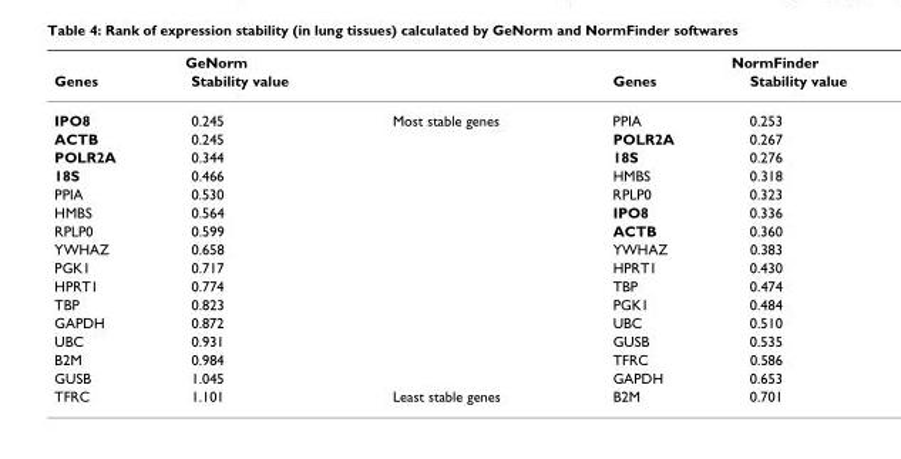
<table><thead><tr><td colspan="2">GeNorm</td><td rowspan="2"></td><td colspan="2">NormFinder</td></tr><tr><td>Genes</td><td>Stability value</td><td>Genes</td><td>Stability value</td></tr></thead><tbody><tr><td>IPO8</td><td>0.245</td><td>Most stable genes</td><td>PPIA</td><td>0.253</td></tr><tr><td>ACTB</td><td>0.245</td><td></td><td>POLR2A</td><td>0.267</td></tr><tr><td>POLR2A</td><td>0.344</td><td></td><td>18S</td><td>0.276</td></tr><tr><td>18S</td><td>0.466</td><td></td><td>HMBS</td><td>0.318</td></tr><tr><td>PPIA</td><td>0.530</td><td></td><td>RPLP0</td><td>0.323</td></tr><tr><td>HMBS</td><td>0.564</td><td></td><td>IPO8</td><td>0.336</td></tr><tr><td>RPLP0</td><td>0.599</td><td></td><td>ACTB</td><td>0.360</td></tr><tr><td>YWHAZ</td><td>0.658</td><td></td><td>YWHAZ</td><td>0.383</td></tr><tr><td>PGK1</td><td>0.717</td><td></td><td>HPRT1</td><td>0.430</td></tr><tr><td>HPRT1</td><td>0.774</td><td></td><td>TBP</td><td>0.474</td></tr><tr><td>TBP</td><td>0.823</td><td></td><td>PGK1</td><td>0.484</td></tr><tr><td>GAPDH</td><td>0.872</td><td></td><td>UBC</td><td>0.510</td></tr><tr><td>UBC</td><td>0.931</td><td></td><td>GUSB</td><td>0.535</td></tr><tr><td>B2M</td><td>0.984</td><td></td><td>TFRC</td><td>0.586</td></tr><tr><td>GUSB</td><td>1.045</td><td></td><td>GAPDH</td><td>0.653</td></tr><tr><td>TFRC</td><td>1.101</td><td>Least stable genes</td><td>B2M</td><td>0.701</td></tr></tbody></table>